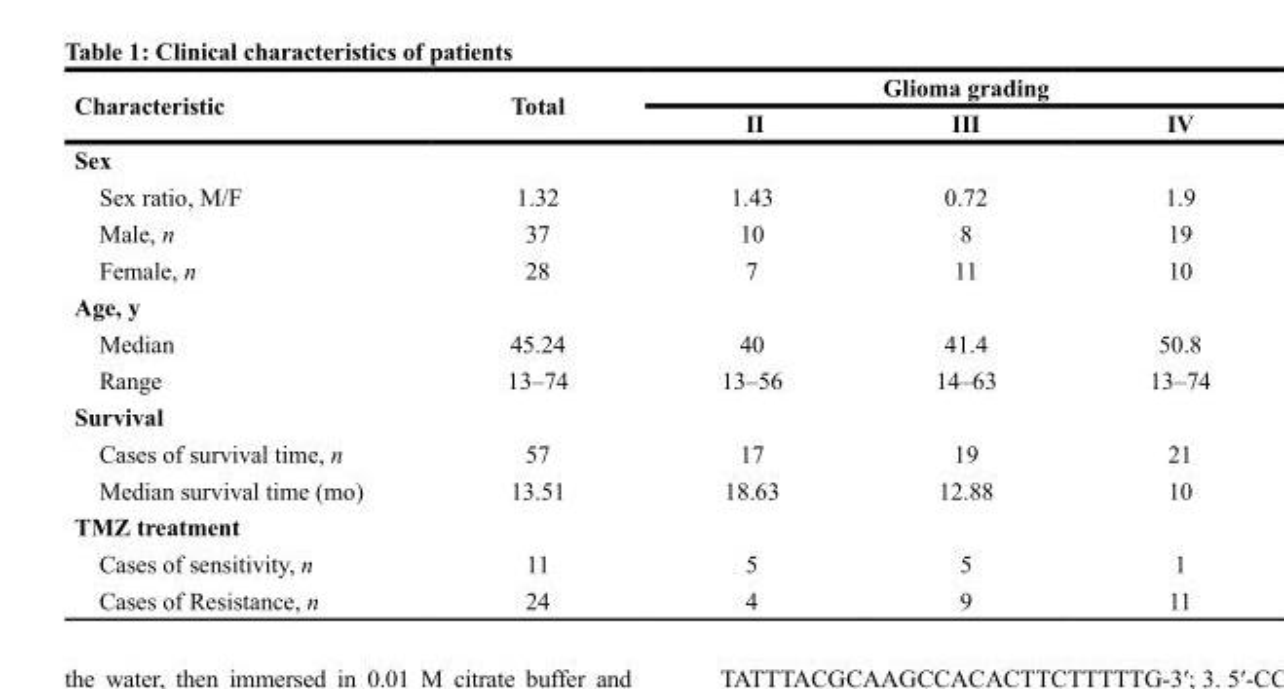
<table><thead><tr><td rowspan="2">Characteristic</td><td rowspan="2">Total</td><td colspan="3">Glioma grading</td></tr><tr><td>II</td><td>III</td><td>IV</td></tr></thead><tbody><tr><td colspan="5">Sex</td></tr><tr><td>Sex ratio, M/F</td><td>1.32</td><td>1.43</td><td>0.72</td><td>1.9</td></tr><tr><td>Male, n</td><td>37</td><td>10</td><td>8</td><td>19</td></tr><tr><td>Female, n</td><td>28</td><td>7</td><td>11</td><td>10</td></tr><tr><td colspan="5">Age, y</td></tr><tr><td>Median</td><td>45.24</td><td>40</td><td>41.4</td><td>50.8</td></tr><tr><td>Range</td><td>13–74</td><td>13–56</td><td>14–63</td><td>13–74</td></tr><tr><td colspan="5">Survival</td></tr><tr><td>Cases of survival time, n</td><td>57</td><td>17</td><td>19</td><td>21</td></tr><tr><td>Median survival time (mo)</td><td>13.51</td><td>18.63</td><td>12.88</td><td>10</td></tr><tr><td colspan="5">TMZ treatment</td></tr><tr><td>Cases of sensitivity, n</td><td>11</td><td>5</td><td>5</td><td>1</td></tr><tr><td>Cases of Resistance, n</td><td>24</td><td>4</td><td>9</td><td>11</td></tr></tbody></table>